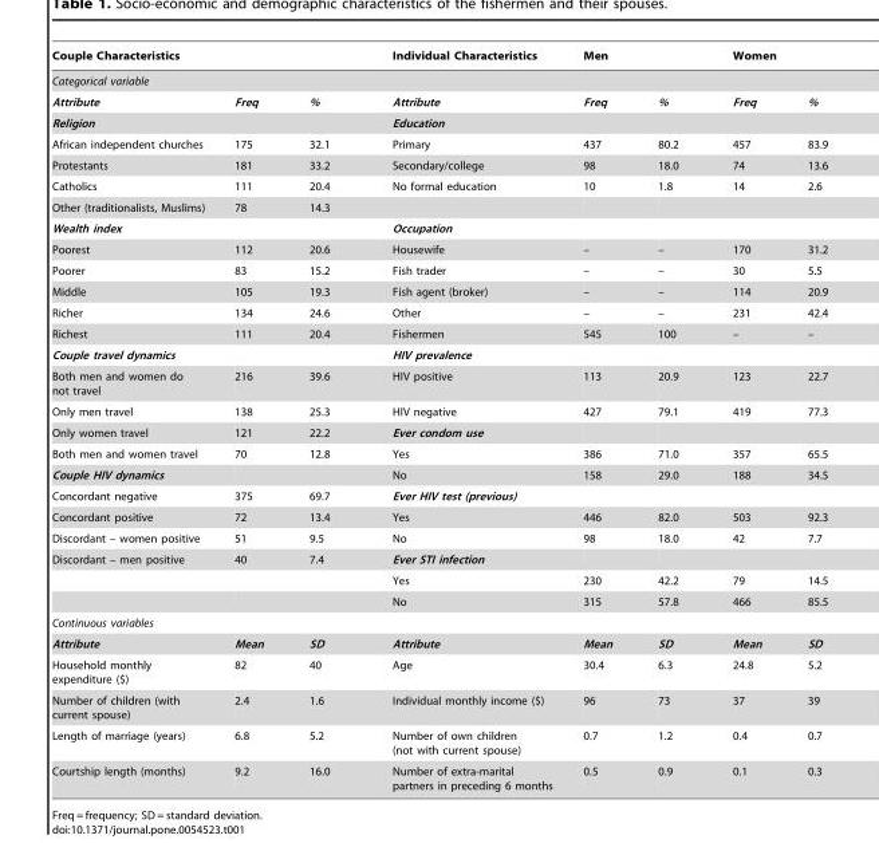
<table><thead><tr><td colspan="2">Couple Characteristics</td><td></td><td>Individual Characteristics</td><td colspan="2">Men</td><td colspan="2">Women</td></tr><tr><td colspan="8">Categorical variable</td></tr><tr><td>Attribute</td><td>Freq</td><td>%</td><td>Attribute</td><td>Freq</td><td>%</td><td>Freq</td><td>%</td></tr></thead><tbody><tr><td colspan="3">Religion</td><td colspan="5">Education</td></tr><tr><td>African independent churches</td><td>175</td><td>32.1</td><td>Primary</td><td>437</td><td>80.2</td><td>457</td><td>83.9</td></tr><tr><td>Protestants</td><td>181</td><td>33.2</td><td>Secondary/college</td><td>98</td><td>18.0</td><td>74</td><td>13.6</td></tr><tr><td>Catholics</td><td>111</td><td>20.4</td><td>No formal education</td><td>10</td><td>1.8</td><td>14</td><td>2.6</td></tr><tr><td>Other (traditionalists, Muslims)</td><td>78</td><td>14.3</td><td></td><td></td><td></td><td></td><td></td></tr><tr><td colspan="3">Wealth index</td><td colspan="5">Occupation</td></tr><tr><td>Poorest</td><td>112</td><td>20.6</td><td>Housewife</td><td>–</td><td>–</td><td>170</td><td>31.2</td></tr><tr><td>Poorer</td><td>83</td><td>15.2</td><td>Fish trader</td><td>–</td><td>–</td><td>30</td><td>5.5</td></tr><tr><td>Middle</td><td>105</td><td>19.3</td><td>Fish agent (broker)</td><td>–</td><td>–</td><td>114</td><td>20.9</td></tr><tr><td>Richer</td><td>134</td><td>24.6</td><td>Other</td><td>–</td><td>–</td><td>231</td><td>42.4</td></tr><tr><td>Richest</td><td>111</td><td>20.4</td><td>Fishermen</td><td>545</td><td>100</td><td>–</td><td>–</td></tr><tr><td>Couple travel dynamics</td><td></td><td></td><td>HIV prevalence</td><td></td><td></td><td></td><td></td></tr><tr><td>Both men and women do not travel</td><td>216</td><td>39.6</td><td>HIV positive</td><td>113</td><td>20.9</td><td>123</td><td>22.7</td></tr><tr><td>Only men travel</td><td>138</td><td>25.3</td><td>HIV negative</td><td>427</td><td>79.1</td><td>419</td><td>77.3</td></tr><tr><td>Only women travel</td><td>121</td><td>22.2</td><td>Ever condom use</td><td></td><td></td><td></td><td></td></tr><tr><td>Both men and women travel</td><td>70</td><td>12.8</td><td>Yes</td><td>386</td><td>71.0</td><td>357</td><td>65.5</td></tr><tr><td>Couple HIV dynamics</td><td></td><td></td><td>No</td><td>158</td><td>29.0</td><td>188</td><td>34.5</td></tr><tr><td>Concordant negative</td><td>375</td><td>69.7</td><td>Ever HIV test (previous)</td><td></td><td></td><td></td><td></td></tr><tr><td>Concordant positive</td><td>72</td><td>13.4</td><td>Yes</td><td>446</td><td>82.0</td><td>503</td><td>92.3</td></tr><tr><td>Discordant – women positive</td><td>51</td><td>9.5</td><td>No</td><td>98</td><td>18.0</td><td>42</td><td>7.7</td></tr><tr><td rowspan="3">Discordant – men positive</td><td>40</td><td>7.4</td><td>Ever STI infection</td><td></td><td></td><td></td><td></td></tr><tr><td></td><td></td><td>Yes</td><td>230</td><td>42.2</td><td>79</td><td>14.5</td></tr><tr><td></td><td></td><td>No</td><td>315</td><td>57.8</td><td>466</td><td>85.5</td></tr><tr><td colspan="8">Continuous variables</td></tr><tr><td>Attribute</td><td>Mean</td><td>SD</td><td>Attribute</td><td>Mean</td><td>SD</td><td>Mean</td><td>SD</td></tr><tr><td>Household monthly expenditure ($)</td><td>82</td><td>40</td><td>Age</td><td>30.4</td><td>6.3</td><td>24.8</td><td>5.2</td></tr><tr><td>Number of children (with current spouse)</td><td>2.4</td><td>1.6</td><td>Individual monthly income ($)</td><td>96</td><td>73</td><td>37</td><td>39</td></tr><tr><td>Length of marriage (years)</td><td>6.8</td><td>5.2</td><td>Number of own children (not with current spouse)</td><td>0.7</td><td>1.2</td><td>0.4</td><td>0.7</td></tr><tr><td>Courtship length (months)</td><td>9.2</td><td>16.0</td><td>Number of extra-marital partners in preceding 6 months</td><td>0.5</td><td>0.9</td><td>0.1</td><td>0.3</td></tr></tbody></table>